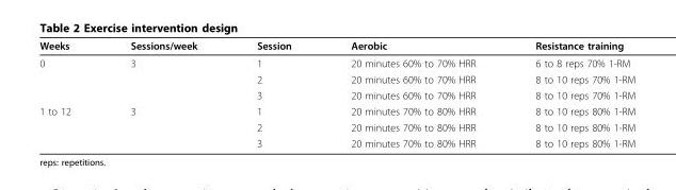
<table><thead><tr><td>Weeks</td><td>Sessions/week</td><td>Session</td><td>Aerobic</td><td>Resistance training</td></tr></thead><tbody><tr><td rowspan="3">0</td><td>3</td><td>1</td><td>20 minutes 60% to 70% HRR</td><td>6 to 8 reps 70% 1-RM</td></tr><tr><td></td><td>2</td><td>20 minutes 60% to 70% HRR</td><td>8 to 10 reps 70% 1-RM</td></tr><tr><td></td><td>3</td><td>20 minutes 60% to 70% HRR</td><td>8 to 10 reps 70% 1-RM</td></tr><tr><td rowspan="3">1 to 12</td><td>3</td><td>1</td><td>20 minutes 70% to 80% HRR</td><td>8 to 10 reps 80% 1-RM</td></tr><tr><td></td><td>2</td><td>20 minutes 70% to 80% HRR</td><td>8 to 10 reps 80% 1-RM</td></tr><tr><td></td><td>3</td><td>20 minutes 70% to 80% HRR</td><td>8 to 10 reps 80% 1-RM</td></tr></tbody></table>